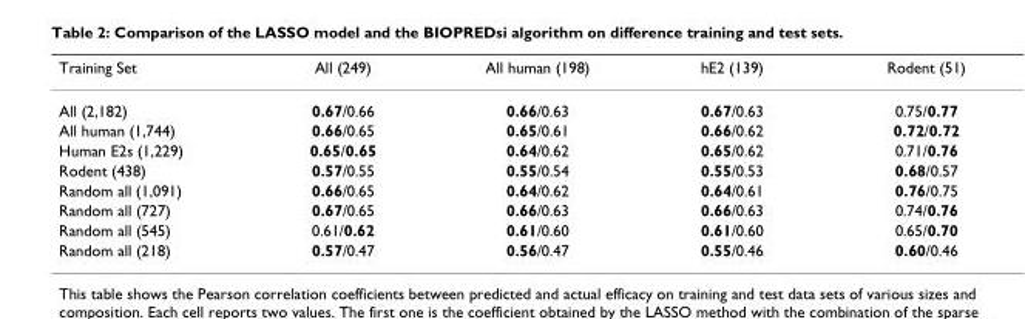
<table><thead><tr><td>Training Set</td><td>All (249)</td><td>All human (198)</td><td>hE2 (139)</td><td>Rodent (51)</td></tr></thead><tbody><tr><td>All (2,182)</td><td>0.67/0.66</td><td>0.66/0.63</td><td>0.67/0.63</td><td>0.75/0.77</td></tr><tr><td>All human (1,744)</td><td>0.66/0.65</td><td>0.65/0.61</td><td>0.66/0.62</td><td>0.72/0.72</td></tr><tr><td>Human E2s (1,229)</td><td>0.65/0.65</td><td>0.64/0.62</td><td>0.65/0.62</td><td>0.71/0.76</td></tr><tr><td>Rodent (438)</td><td>0.57/0.55</td><td>0.55/0.54</td><td>0.55/0.53</td><td>0.68/0.57</td></tr><tr><td>Random all (1,091)</td><td>0.66/0.65</td><td>0.64/0.62</td><td>0.64/0.61</td><td>0.76/0.75</td></tr><tr><td>Random all (727)</td><td>0.67/0.65</td><td>0.66/0.63</td><td>0.66/0.63</td><td>0.74/0.76</td></tr><tr><td>Random all (545)</td><td>0.61/0.62</td><td>0.61/0.60</td><td>0.61/0.60</td><td>0.65/0.70</td></tr><tr><td>Random all (218)</td><td>0.57/0.47</td><td>0.56/0.47</td><td>0.55/0.46</td><td>0.60/0.46</td></tr></tbody></table>